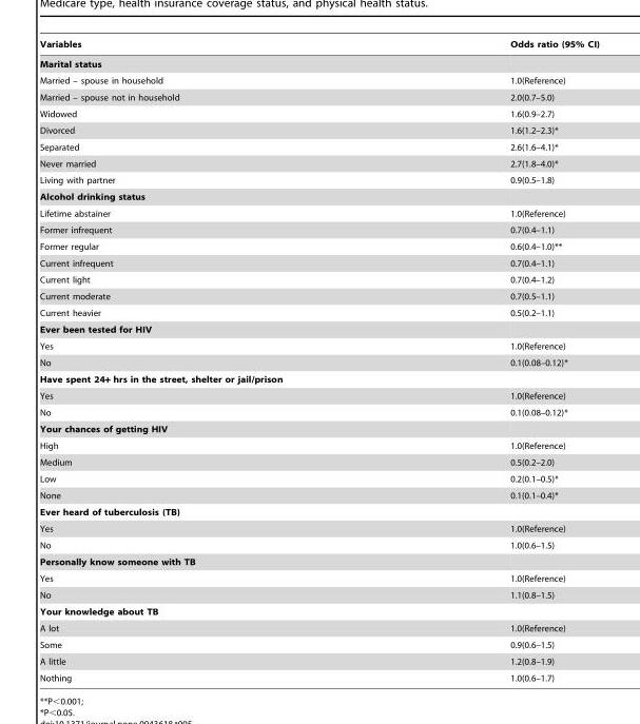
<table><thead><tr><td>Variables</td><td>Odds ratio (95% CI)</td></tr></thead><tbody><tr><td colspan="2">Marital status</td></tr><tr><td>Married – spouse in household</td><td>1.0(Reference)</td></tr><tr><td>Married – spouse not in household</td><td>2.0(0.7–5.0)</td></tr><tr><td>Widowed</td><td>1.6(0.9–2.7)</td></tr><tr><td>Divorced</td><td>1.6(1.2–2.3)*</td></tr><tr><td>Separated</td><td>2.6(1.6–4.1)*</td></tr><tr><td>Never married</td><td>2.7(1.8–4.0)*</td></tr><tr><td>Living with partner</td><td>0.9(0.5–1.8)</td></tr><tr><td colspan="2">Alcohol drinking status</td></tr><tr><td>Lifetime abstainer</td><td>1.0(Reference)</td></tr><tr><td>Former infrequent</td><td>0.7(0.4–1.1)</td></tr><tr><td>Former regular</td><td>0.6(0.4–1.0)**</td></tr><tr><td>Current infrequent</td><td>0.7(0.4–1.1)</td></tr><tr><td>Current light</td><td>0.7(0.4–1.2)</td></tr><tr><td>Current moderate</td><td>0.7(0.5–1.1)</td></tr><tr><td>Current heavier</td><td>0.5(0.2–1.1)</td></tr><tr><td colspan="2">Ever been tested for HIV</td></tr><tr><td>Yes</td><td>1.0(Reference)</td></tr><tr><td>No</td><td>0.1(0.08–0.12)*</td></tr><tr><td colspan="2">Have spent 24+ hrs in the street, shelter or jail/prison</td></tr><tr><td>Yes</td><td>1.0(Reference)</td></tr><tr><td>No</td><td>0.1(0.08–0.12)*</td></tr><tr><td colspan="2">Your chances of getting HIV</td></tr><tr><td>High</td><td>1.0(Reference)</td></tr><tr><td>Medium</td><td>0.5(0.2–2.0)</td></tr><tr><td>Low</td><td>0.2(0.1–0.5)*</td></tr><tr><td>None</td><td>0.1(0.1–0.4)*</td></tr><tr><td colspan="2">Ever heard of tuberculosis (TB)</td></tr><tr><td>Yes</td><td>1.0(Reference)</td></tr><tr><td>No</td><td>1.0(0.6–1.5)</td></tr><tr><td colspan="2">Personally know someone with TB</td></tr><tr><td>Yes</td><td>1.0(Reference)</td></tr><tr><td>No</td><td>1.1(0.8–1.5)</td></tr><tr><td colspan="2">Your knowledge about TB</td></tr><tr><td>A lot</td><td>1.0(Reference)</td></tr><tr><td>Some</td><td>0.9(0.6–1.5)</td></tr><tr><td>A little</td><td>1.2(0.8–1.9)</td></tr><tr><td>Nothing</td><td>1.0(0.6–1.7)</td></tr></tbody></table>